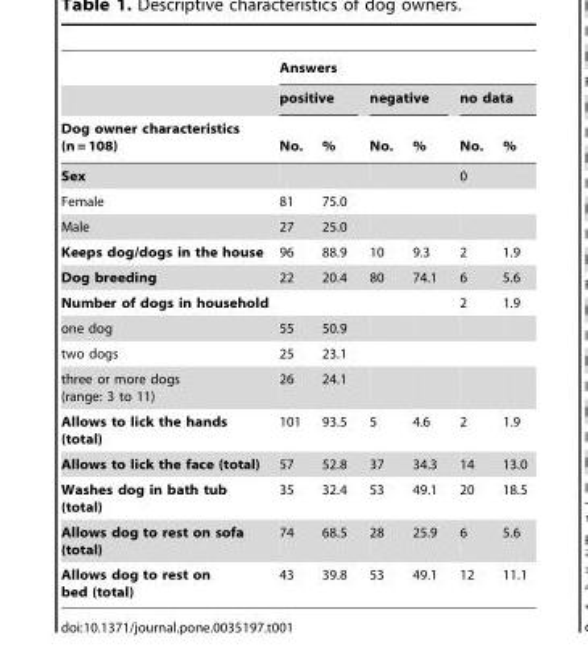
<table><thead><tr><td rowspan="3">Dog owner characteristics (n = 108)</td><td colspan="6">Answers</td></tr><tr><td colspan="2">positive</td><td colspan="2">negative</td><td colspan="2">no data</td></tr><tr><td>No.</td><td>%</td><td>No.</td><td>%</td><td>No.</td><td>%</td></tr></thead><tbody><tr><td>Sex</td><td></td><td></td><td></td><td></td><td>0</td><td></td></tr><tr><td>Female</td><td>81</td><td>75.0</td><td></td><td></td><td></td><td></td></tr><tr><td>Male</td><td>27</td><td>25.0</td><td></td><td></td><td></td><td></td></tr><tr><td>Keeps dog/dogs in the house</td><td>96</td><td>88.9</td><td>10</td><td>9.3</td><td>2</td><td>1.9</td></tr><tr><td>Dog breeding</td><td>22</td><td>20.4</td><td>80</td><td>74.1</td><td>6</td><td>5.6</td></tr><tr><td>Number of dogs in household</td><td></td><td></td><td></td><td></td><td>2</td><td>1.9</td></tr><tr><td>one dog</td><td>55</td><td>50.9</td><td></td><td></td><td></td><td></td></tr><tr><td>two dogs</td><td>25</td><td>23.1</td><td></td><td></td><td></td><td></td></tr><tr><td>three or more dogs (range: 3 to 11)</td><td>26</td><td>24.1</td><td></td><td></td><td></td><td></td></tr><tr><td>Allows to lick the hands (total)</td><td>101</td><td>93.5</td><td>5</td><td>4.6</td><td>2</td><td>1.9</td></tr><tr><td>Allows to lick the face (total)</td><td>57</td><td>52.8</td><td>37</td><td>34.3</td><td>14</td><td>13.0</td></tr><tr><td>Washes dog in bath tub (total)</td><td>35</td><td>32.4</td><td>53</td><td>49.1</td><td>20</td><td>18.5</td></tr><tr><td>Allows dog to rest on sofa (total)</td><td>74</td><td>68.5</td><td>28</td><td>25.9</td><td>6</td><td>5.6</td></tr><tr><td>Allows dog to rest on bed (total)</td><td>43</td><td>39.8</td><td>53</td><td>49.1</td><td>12</td><td>11.1</td></tr></tbody></table>